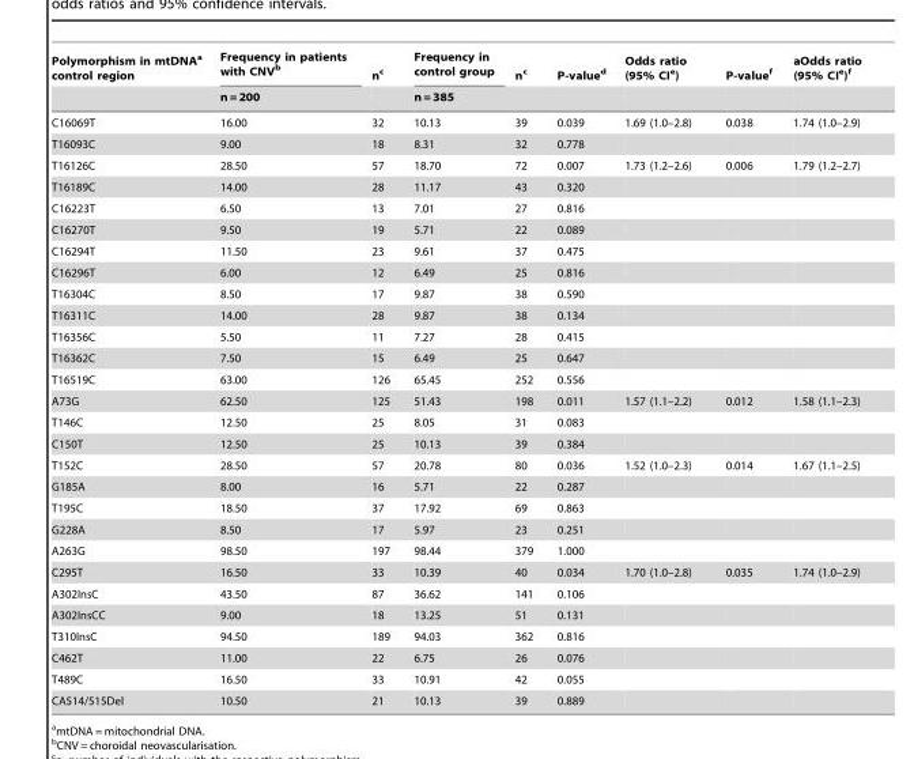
<table><thead><tr><td rowspan="2">Polymorphism in mtDNA<sup>a</sup> control region</td><td rowspan="2">Frequency in patients with CNV<sup>b</sup> n = 200</td><td rowspan="2">n<sup>c</sup></td><td rowspan="2">Frequency in control group n = 385</td><td rowspan="2">n<sup>c</sup></td><td rowspan="2">P-value<sup>d</sup></td><td rowspan="2">Odds ratio (95% CI<sup>e</sup>)</td><td rowspan="2">P-value<sup>f</sup></td><td rowspan="2">aOdds ratio (95% CI<sup>e</sup>)<sup>f</sup></td></tr><tr></tr></thead><tbody><tr><td>C16069T</td><td>16.00</td><td>32</td><td>10.13</td><td>39</td><td>0.039</td><td>1.69 (1.0–2.8)</td><td>0.038</td><td>1.74 (1.0–2.9)</td></tr><tr><td>T16093C</td><td>9.00</td><td>18</td><td>8.31</td><td>32</td><td>0.778</td><td></td><td></td><td></td></tr><tr><td>T16126C</td><td>28.50</td><td>57</td><td>18.70</td><td>72</td><td>0.007</td><td>1.73 (1.2–2.6)</td><td>0.006</td><td>1.79 (1.2–2.7)</td></tr><tr><td>T16189C</td><td>14.00</td><td>28</td><td>11.17</td><td>43</td><td>0.320</td><td></td><td></td><td></td></tr><tr><td>C16223T</td><td>6.50</td><td>13</td><td>7.01</td><td>27</td><td>0.816</td><td></td><td></td><td></td></tr><tr><td>C16270T</td><td>9.50</td><td>19</td><td>5.71</td><td>22</td><td>0.089</td><td></td><td></td><td></td></tr><tr><td>C16294T</td><td>11.50</td><td>23</td><td>9.61</td><td>37</td><td>0.475</td><td></td><td></td><td></td></tr><tr><td>C16296T</td><td>6.00</td><td>12</td><td>6.49</td><td>25</td><td>0.816</td><td></td><td></td><td></td></tr><tr><td>T16304C</td><td>8.50</td><td>17</td><td>9.87</td><td>38</td><td>0.590</td><td></td><td></td><td></td></tr><tr><td>T16311C</td><td>14.00</td><td>28</td><td>9.87</td><td>38</td><td>0.134</td><td></td><td></td><td></td></tr><tr><td>T16356C</td><td>5.50</td><td>11</td><td>7.27</td><td>28</td><td>0.415</td><td></td><td></td><td></td></tr><tr><td>T16362C</td><td>7.50</td><td>15</td><td>6.49</td><td>25</td><td>0.647</td><td></td><td></td><td></td></tr><tr><td>T16519C</td><td>63.00</td><td>126</td><td>65.45</td><td>252</td><td>0.556</td><td></td><td></td><td></td></tr><tr><td>A73G</td><td>62.50</td><td>125</td><td>51.43</td><td>198</td><td>0.011</td><td>1.57 (1.1–2.2)</td><td>0.012</td><td>1.58 (1.1–2.3)</td></tr><tr><td>T146C</td><td>12.50</td><td>25</td><td>8.05</td><td>31</td><td>0.083</td><td></td><td></td><td></td></tr><tr><td>C150T</td><td>12.50</td><td>25</td><td>10.13</td><td>39</td><td>0.384</td><td></td><td></td><td></td></tr><tr><td>T152C</td><td>28.50</td><td>57</td><td>20.78</td><td>80</td><td>0.036</td><td>1.52 (1.0–2.3)</td><td>0.014</td><td>1.67 (1.1–2.5)</td></tr><tr><td>G185A</td><td>8.00</td><td>16</td><td>5.71</td><td>22</td><td>0.287</td><td></td><td></td><td></td></tr><tr><td>T195C</td><td>18.50</td><td>37</td><td>17.92</td><td>69</td><td>0.863</td><td></td><td></td><td></td></tr><tr><td>G228A</td><td>8.50</td><td>17</td><td>5.97</td><td>23</td><td>0.251</td><td></td><td></td><td></td></tr><tr><td>A263G</td><td>98.50</td><td>197</td><td>98.44</td><td>379</td><td>1.000</td><td></td><td></td><td></td></tr><tr><td>C295T</td><td>16.50</td><td>33</td><td>10.39</td><td>40</td><td>0.034</td><td>1.70 (1.0–2.8)</td><td>0.035</td><td>1.74 (1.0–2.9)</td></tr><tr><td>A302InsC</td><td>43.50</td><td>87</td><td>36.62</td><td>141</td><td>0.106</td><td></td><td></td><td></td></tr><tr><td>A302InsCC</td><td>9.00</td><td>18</td><td>13.25</td><td>51</td><td>0.131</td><td></td><td></td><td></td></tr><tr><td>T310InsC</td><td>94.50</td><td>189</td><td>94.03</td><td>362</td><td>0.816</td><td></td><td></td><td></td></tr><tr><td>C462T</td><td>11.00</td><td>22</td><td>6.75</td><td>26</td><td>0.076</td><td></td><td></td><td></td></tr><tr><td>T489C</td><td>16.50</td><td>33</td><td>10.91</td><td>42</td><td>0.055</td><td></td><td></td><td></td></tr><tr><td>CA514/515Del</td><td>10.50</td><td>21</td><td>10.13</td><td>39</td><td>0.889</td><td></td><td></td><td></td></tr></tbody></table>